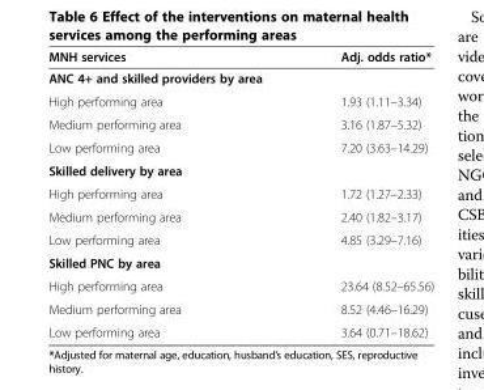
<table><thead><tr><td>MNH services</td><td>Adj. odds ratio*</td></tr></thead><tbody><tr><td colspan="2">ANC 4+ and skilled providers by area</td></tr><tr><td>High performing area</td><td>1.93 (1.11–3.34)</td></tr><tr><td>Medium performing area</td><td>3.16 (1.87–5.32)</td></tr><tr><td>Low performing area</td><td>7.20 (3.63–14.29)</td></tr><tr><td colspan="2">Skilled delivery by area</td></tr><tr><td>High performing area</td><td>1.72 (1.27–2.33)</td></tr><tr><td>Medium performing area</td><td>2.40 (1.82–3.17)</td></tr><tr><td>Low performing area</td><td>4.85 (3.29–7.16)</td></tr><tr><td colspan="2">Skilled PNC by area</td></tr><tr><td>High performing area</td><td>23.64 (8.52–65.56)</td></tr><tr><td>Medium performing area</td><td>8.52 (4.46–16.29)</td></tr><tr><td>Low performing area</td><td>3.64 (0.71–18.62)</td></tr></tbody></table>